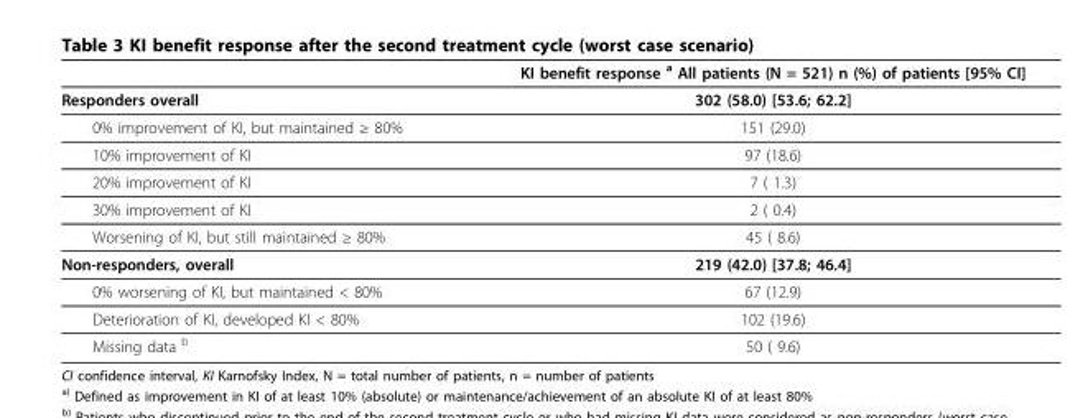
<table><thead><tr><td></td><td>KI benefit response <sup>a</sup> All patients (N = 521) n (%) of patients [95% CI]</td></tr></thead><tbody><tr><td>Responders overall</td><td>302 (58.0) [53.6; 62.2]</td></tr><tr><td>0% improvement of KI, but maintained ≥ 80%</td><td>151 (29.0)</td></tr><tr><td>10% improvement of KI</td><td>97 (18.6)</td></tr><tr><td>20% improvement of KI</td><td>7 ( 1.3)</td></tr><tr><td>30% improvement of KI</td><td>2 ( 0.4)</td></tr><tr><td>Worsening of KI, but still maintained ≥ 80%</td><td>45 ( 8.6)</td></tr><tr><td>Non-responders, overall</td><td>219 (42.0) [37.8; 46.4]</td></tr><tr><td>0% worsening of KI, but maintained &lt; 80%</td><td>67 (12.9)</td></tr><tr><td>Deterioration of KI, developed KI &lt; 80%</td><td>102 (19.6)</td></tr><tr><td>Missing data <sup>b</sup></td><td>50 ( 9.6)</td></tr></tbody></table>